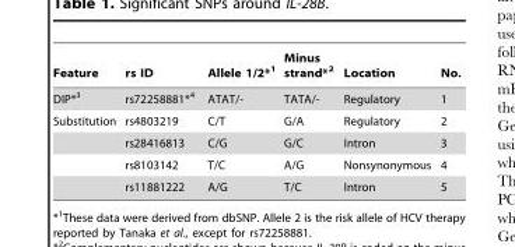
<table><thead><tr><td>Feature</td><td>rs ID</td><td>Allele 1/2*1</td><td>Minus strand*2</td><td>Location</td><td>No.</td></tr></thead><tbody><tr><td>DIP*3</td><td>rs72258881*4</td><td>ATAT/-</td><td>TATA/-</td><td>Regulatory</td><td>1</td></tr><tr><td rowspan="4">Substitution</td><td>rs4803219</td><td>C/T</td><td>G/A</td><td>Regulatory</td><td>2</td></tr><tr><td>rs28416813</td><td>C/G</td><td>G/C</td><td>Intron</td><td>3</td></tr><tr><td>rs8103142</td><td>T/C</td><td>A/G</td><td>Nonsynonymous</td><td>4</td></tr><tr><td>rs11881222</td><td>A/G</td><td>T/C</td><td>Intron</td><td>5</td></tr></tbody></table>